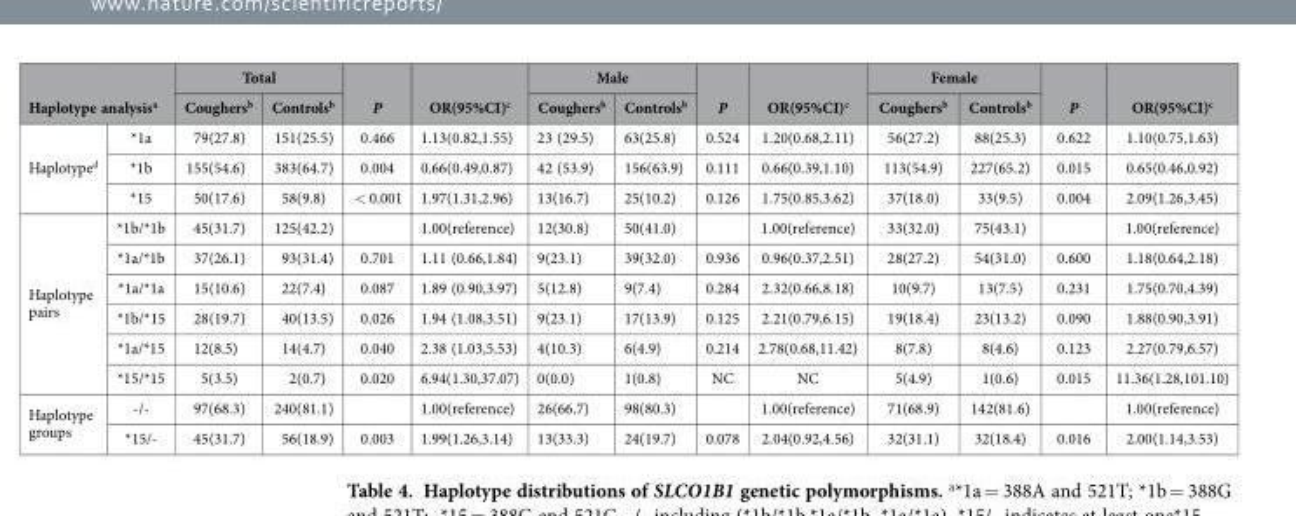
<table><thead><tr><td></td><td></td><td colspan="2">Total</td><td rowspan="2">P</td><td rowspan="2">OR(95%CI)<sup>c</sup></td><td colspan="2">Male</td><td rowspan="2">P</td><td rowspan="2">OR(95%CI)<sup>c</sup></td><td colspan="2">Female</td><td rowspan="2">P</td><td rowspan="2">OR(95%CI)<sup>c</sup></td></tr><tr><td colspan="2">Haplotype analysis<sup>a</sup></td><td>Coughers<sup>b</sup></td><td>Controls<sup>b</sup></td><td>Coughers<sup>b</sup></td><td>Controls<sup>b</sup></td><td>Coughers<sup>b</sup></td><td>Controls<sup>b</sup></td></tr></thead><tbody><tr><td rowspan="3">Haplotype<sup>d</sup></td><td>*1a</td><td>79(27.8)</td><td>151(25.5)</td><td>0.466</td><td>1.13(0.82,1.55)</td><td>23 (29.5)</td><td>63(25.8)</td><td>0.524</td><td>1.20(0.68,2.11)</td><td>56(27.2)</td><td>88(25.3)</td><td>0.622</td><td>1.10(0.75,1.63)</td></tr><tr><td>*1b</td><td>155(54.6)</td><td>383(64.7)</td><td>0.004</td><td>0.66(0.49,0.87)</td><td>42 (53.9)</td><td>156(63.9)</td><td>0.111</td><td>0.66(0.39,1.10)</td><td>113(54.9)</td><td>227(65.2)</td><td>0.015</td><td>0.65(0.46,0.92)</td></tr><tr><td>*15</td><td>50(17.6)</td><td>58(9.8)</td><td>&lt; 0.001</td><td>1.97(1.31,2.96)</td><td>13(16.7)</td><td>25(10.2)</td><td>0.126</td><td>1.75(0.85,3.62)</td><td>37(18.0)</td><td>33(9.5)</td><td>0.004</td><td>2.09(1.26,3.45)</td></tr><tr><td rowspan="6">Haplotype pairs</td><td>*1b/*1b</td><td>45(31.7)</td><td>125(42.2)</td><td></td><td>1.00(reference)</td><td>12(30.8)</td><td>50(41.0)</td><td></td><td>1.00(reference)</td><td>33(32.0)</td><td>75(43.1)</td><td></td><td>1.00(reference)</td></tr><tr><td>*1a/*1b</td><td>37(26.1)</td><td>93(31.4)</td><td>0.701</td><td>1.11 (0.66,1.84)</td><td>9(23.1)</td><td>39(32.0)</td><td>0.936</td><td>0.96(0.37,2.51)</td><td>28(27.2)</td><td>54(31.0)</td><td>0.600</td><td>1.18(0.64,2.18)</td></tr><tr><td>*1a/*1a</td><td>15(10.6)</td><td>22(7.4)</td><td>0.087</td><td>1.89 (0.90,3.97)</td><td>5(12.8)</td><td>9(7.4)</td><td>0.284</td><td>2.32(0.66,8.18)</td><td>10(9.7)</td><td>13(7.5)</td><td>0.231</td><td>1.75(0.70,4.39)</td></tr><tr><td>*1b/*15</td><td>28(19.7)</td><td>40(13.5)</td><td>0.026</td><td>1.94 (1.08,3.51)</td><td>9(23.1)</td><td>17(13.9)</td><td>0.125</td><td>2.21(0.79,6.15)</td><td>19(18.4)</td><td>23(13.2)</td><td>0.090</td><td>1.88(0.90,3.91)</td></tr><tr><td>*1a/*15</td><td>12(8.5)</td><td>14(4.7)</td><td>0.040</td><td>2.38 (1.03,5.53)</td><td>4(10.3)</td><td>6(4.9)</td><td>0.214</td><td>2.78(0.68,11.42)</td><td>8(7.8)</td><td>8(4.6)</td><td>0.123</td><td>2.27(0.79,6.57)</td></tr><tr><td>*15/*15</td><td>5(3.5)</td><td>2(0.7)</td><td>0.020</td><td>6.94(1.30,37.07)</td><td>0(0.0)</td><td>1(0.8)</td><td>NC</td><td>NC</td><td>5(4.9)</td><td>1(0.6)</td><td>0.015</td><td>11.36(1.28,101.10)</td></tr><tr><td rowspan="2">Haplotype groups</td><td>-/-</td><td>97(68.3)</td><td>240(81.1)</td><td></td><td>1.00(reference)</td><td>26(66.7)</td><td>98(80.3)</td><td></td><td>1.00(reference)</td><td>71(68.9)</td><td>142(81.6)</td><td></td><td>1.00(reference)</td></tr><tr><td>*15/-</td><td>45(31.7)</td><td>56(18.9)</td><td>0.003</td><td>1.99(1.26,3.14)</td><td>13(33.3)</td><td>24(19.7)</td><td>0.078</td><td>2.04(0.92,4.56)</td><td>32(31.1)</td><td>32(18.4)</td><td>0.016</td><td>2.00(1.14,3.53)</td></tr></tbody></table>